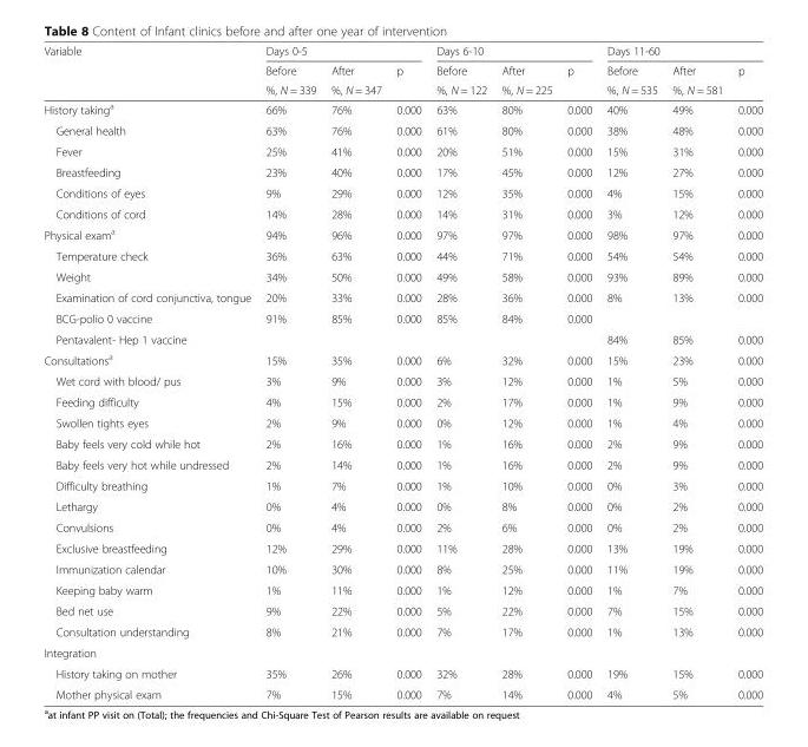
<table><thead><tr><td rowspan="3">Variable</td><td colspan="3">Days 0-5</td><td colspan="3">Days 6-10</td><td colspan="3">Days 11-60</td></tr><tr><td rowspan="2">Before %, N = 339</td><td rowspan="2">After %, N = 347</td><td rowspan="2">p</td><td rowspan="2">Before %, N = 122</td><td rowspan="2">After %, N = 225</td><td rowspan="2">p</td><td rowspan="2">Before %, N = 535</td><td rowspan="2">After %, N = 581</td><td rowspan="2">p</td></tr><tr></tr></thead><tbody><tr><td>History taking<sup>a</sup></td><td>66%</td><td>76%</td><td>0.000</td><td>63%</td><td>80%</td><td>0.000</td><td>40%</td><td>49%</td><td>0.000</td></tr><tr><td>General health</td><td>63%</td><td>76%</td><td>0.000</td><td>61%</td><td>80%</td><td>0.000</td><td>38%</td><td>48%</td><td>0.000</td></tr><tr><td>Fever</td><td>25%</td><td>41%</td><td>0.000</td><td>20%</td><td>51%</td><td>0.000</td><td>15%</td><td>31%</td><td>0.000</td></tr><tr><td>Breastfeeding</td><td>23%</td><td>40%</td><td>0.000</td><td>17%</td><td>45%</td><td>0.000</td><td>12%</td><td>27%</td><td>0.000</td></tr><tr><td>Conditions of eyes</td><td>9%</td><td>29%</td><td>0.000</td><td>12%</td><td>35%</td><td>0.000</td><td>4%</td><td>15%</td><td>0.000</td></tr><tr><td>Conditions of cord</td><td>14%</td><td>28%</td><td>0.000</td><td>14%</td><td>31%</td><td>0.000</td><td>3%</td><td>12%</td><td>0.000</td></tr><tr><td>Physical exam<sup>a</sup></td><td>94%</td><td>96%</td><td>0.000</td><td>97%</td><td>97%</td><td>0.000</td><td>98%</td><td>97%</td><td>0.000</td></tr><tr><td>Temperature check</td><td>36%</td><td>63%</td><td>0.000</td><td>44%</td><td>71%</td><td>0.000</td><td>54%</td><td>54%</td><td>0.000</td></tr><tr><td>Weight</td><td>34%</td><td>50%</td><td>0.000</td><td>49%</td><td>58%</td><td>0.000</td><td>93%</td><td>89%</td><td>0.000</td></tr><tr><td>Examination of cord conjunctiva, tongue</td><td>20%</td><td>33%</td><td>0.000</td><td>28%</td><td>36%</td><td>0.000</td><td>8%</td><td>13%</td><td>0.000</td></tr><tr><td>BCG-polio 0 vaccine</td><td>91%</td><td>85%</td><td>0.000</td><td>85%</td><td>84%</td><td>0.000</td><td></td><td></td><td></td></tr><tr><td>Pentavalent- Hep 1 vaccine</td><td></td><td></td><td></td><td></td><td></td><td></td><td>84%</td><td>85%</td><td>0.000</td></tr><tr><td>Consultations<sup>a</sup></td><td>15%</td><td>35%</td><td>0.000</td><td>6%</td><td>32%</td><td>0.000</td><td>15%</td><td>23%</td><td>0.000</td></tr><tr><td>Wet cord with blood/ pus</td><td>3%</td><td>9%</td><td>0.000</td><td>3%</td><td>12%</td><td>0.000</td><td>1%</td><td>5%</td><td>0.000</td></tr><tr><td>Feeding difficulty</td><td>4%</td><td>15%</td><td>0.000</td><td>2%</td><td>17%</td><td>0.000</td><td>1%</td><td>9%</td><td>0.000</td></tr><tr><td>Swollen tights eyes</td><td>2%</td><td>9%</td><td>0.000</td><td>0%</td><td>12%</td><td>0.000</td><td>1%</td><td>4%</td><td>0.000</td></tr><tr><td>Baby feels very cold while hot</td><td>2%</td><td>16%</td><td>0.000</td><td>1%</td><td>16%</td><td>0.000</td><td>2%</td><td>9%</td><td>0.000</td></tr><tr><td>Baby feels very hot while undressed</td><td>2%</td><td>14%</td><td>0.000</td><td>1%</td><td>16%</td><td>0.000</td><td>2%</td><td>9%</td><td>0.000</td></tr><tr><td>Difficulty breathing</td><td>1%</td><td>7%</td><td>0.000</td><td>1%</td><td>10%</td><td>0.000</td><td>0%</td><td>3%</td><td>0.000</td></tr><tr><td>Lethargy</td><td>0%</td><td>4%</td><td>0.000</td><td>0%</td><td>8%</td><td>0.000</td><td>0%</td><td>2%</td><td>0.000</td></tr><tr><td>Convulsions</td><td>0%</td><td>4%</td><td>0.000</td><td>2%</td><td>6%</td><td>0.000</td><td>0%</td><td>2%</td><td>0.000</td></tr><tr><td>Exclusive breastfeeding</td><td>12%</td><td>29%</td><td>0.000</td><td>11%</td><td>28%</td><td>0.000</td><td>13%</td><td>19%</td><td>0.000</td></tr><tr><td>Immunization calendar</td><td>10%</td><td>30%</td><td>0.000</td><td>8%</td><td>25%</td><td>0.000</td><td>11%</td><td>19%</td><td>0.000</td></tr><tr><td>Keeping baby warm</td><td>1%</td><td>11%</td><td>0.000</td><td>1%</td><td>12%</td><td>0.000</td><td>1%</td><td>7%</td><td>0.000</td></tr><tr><td>Bed net use</td><td>9%</td><td>22%</td><td>0.000</td><td>5%</td><td>22%</td><td>0.000</td><td>7%</td><td>15%</td><td>0.000</td></tr><tr><td>Consultation understanding</td><td>8%</td><td>21%</td><td>0.000</td><td>7%</td><td>17%</td><td>0.000</td><td>1%</td><td>13%</td><td>0.000</td></tr><tr><td colspan="10">Integration</td></tr><tr><td>History taking on mother</td><td>35%</td><td>26%</td><td>0.000</td><td>32%</td><td>28%</td><td>0.000</td><td>19%</td><td>15%</td><td>0.000</td></tr><tr><td>Mother physical exam</td><td>7%</td><td>15%</td><td>0.000</td><td>7%</td><td>14%</td><td>0.000</td><td>4%</td><td>5%</td><td>0.000</td></tr></tbody></table>